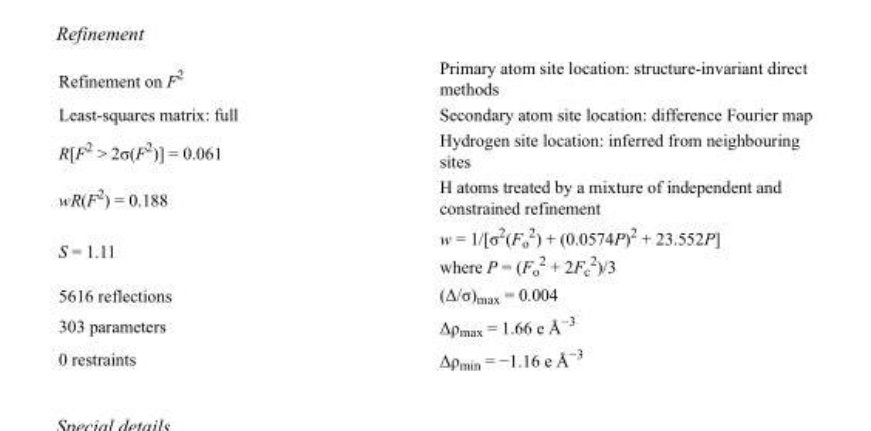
<table><tbody><tr><td>Refinement on F<sup>2</sup></td><td>Primary atom site location: structure-invariant direct methods</td></tr><tr><td>Least-squares matrix: full</td><td>Secondary atom site location: difference Fourier map</td></tr><tr><td>R[F<sup>2</sup> &gt; 2σ(F<sup>2</sup>)] = 0.061</td><td>Hydrogen site location: inferred from neighbouring sites</td></tr><tr><td>wR(F<sup>2</sup>) = 0.188</td><td>H atoms treated by a mixture of independent and constrained refinement</td></tr><tr><td>S = 1.11</td><td>w = 1/[σ<sup>2</sup>(F<sub>o</sub> <sup>2</sup>) + (0.0574P)<sup>2</sup> + 23.552P] where P = (F<sub>o</sub> <sup>2</sup> + 2F<sub>c</sub> <sup>2</sup>)/3</td></tr><tr><td>5616 reflections</td><td>(Δ/σ)<sub>max</sub> = 0.004</td></tr><tr><td>303 parameters</td><td>Δρ<sub>max</sub> = 1.66 e Å<sup>−3</sup></td></tr><tr><td>0 restraints</td><td>Δρ<sub>min</sub> = −1.16 e Å<sup>−3</sup></td></tr></tbody></table>